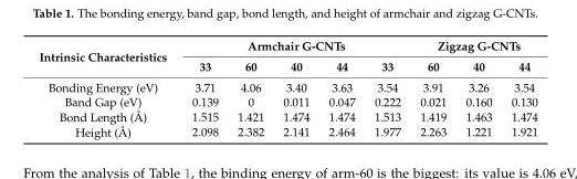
<table><thead><tr><td rowspan="2">Intrinsic Characteristics</td><td colspan="5">Armchair G-CNTs</td><td colspan="3">Zigzag G-CNTs</td></tr><tr><td>33</td><td>60</td><td>40</td><td>44</td><td>33</td><td>60</td><td>40</td><td>44</td></tr></thead><tbody><tr><td>Bonding Energy (eV)</td><td>3.71</td><td>4.06</td><td>3.40</td><td>3.63</td><td>3.54</td><td>3.91</td><td>3.26</td><td>3.54</td></tr><tr><td>Band Gap (eV)</td><td>0.139</td><td>0</td><td>0.011</td><td>0.047</td><td>0.222</td><td>0.021</td><td>0.160</td><td>0.130</td></tr><tr><td>Bond Length (Å)</td><td>1.515</td><td>1.421</td><td>1.474</td><td>1.474</td><td>1.513</td><td>1.419</td><td>1.463</td><td>1.474</td></tr><tr><td>Height (Å)</td><td>2.098</td><td>2.382</td><td>2.141</td><td>2.464</td><td>1.977</td><td>2.263</td><td>1.221</td><td>1.921</td></tr></tbody></table>